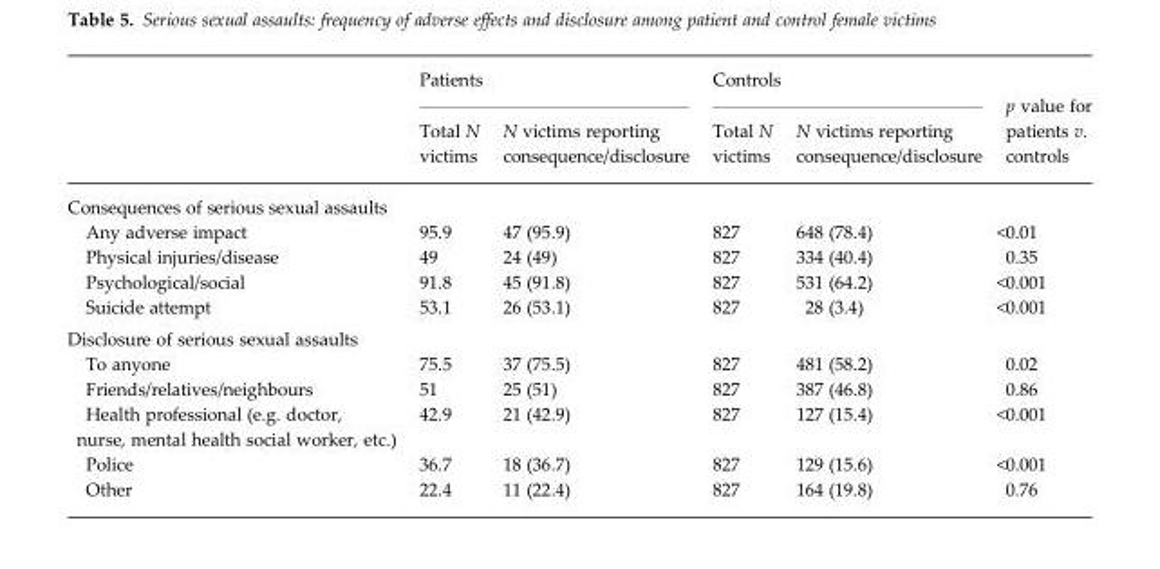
<table><thead><tr><td rowspan="2"></td><td colspan="2">Patients</td><td colspan="2">Controls</td><td rowspan="2">p value for patients v. controls</td></tr><tr><td>Total N victims</td><td>N victims reporting consequence/disclosure</td><td>Total N victims</td><td>N victims reporting consequence/disclosure</td></tr></thead><tbody><tr><td colspan="6">Consequences of serious sexual assaults</td></tr><tr><td>Any adverse impact</td><td>95.9</td><td>47 (95.9)</td><td>827</td><td>648 (78.4)</td><td>&lt;0.01</td></tr><tr><td>Physical injuries/disease</td><td>49</td><td>24 (49)</td><td>827</td><td>334 (40.4)</td><td>0.35</td></tr><tr><td>Psychological/social</td><td>91.8</td><td>45 (91.8)</td><td>827</td><td>531 (64.2)</td><td>&lt;0.001</td></tr><tr><td>Suicide attempt</td><td>53.1</td><td>26 (53.1)</td><td>827</td><td>28 (3.4)</td><td>&lt;0.001</td></tr><tr><td colspan="6">Disclosure of serious sexual assaults</td></tr><tr><td>To anyone</td><td>75.5</td><td>37 (75.5)</td><td>827</td><td>481 (58.2)</td><td>0.02</td></tr><tr><td>Friends/relatives/neighbours</td><td>51</td><td>25 (51)</td><td>827</td><td>387 (46.8)</td><td>0.86</td></tr><tr><td>Health professional (e.g. doctor, nurse, mental health social worker, etc.)</td><td>42.9</td><td>21 (42.9)</td><td>827</td><td>127 (15.4)</td><td>&lt;0.001</td></tr><tr><td>Police</td><td>36.7</td><td>18 (36.7)</td><td>827</td><td>129 (15.6)</td><td>&lt;0.001</td></tr><tr><td>Other</td><td>22.4</td><td>11 (22.4)</td><td>827</td><td>164 (19.8)</td><td>0.76</td></tr></tbody></table>